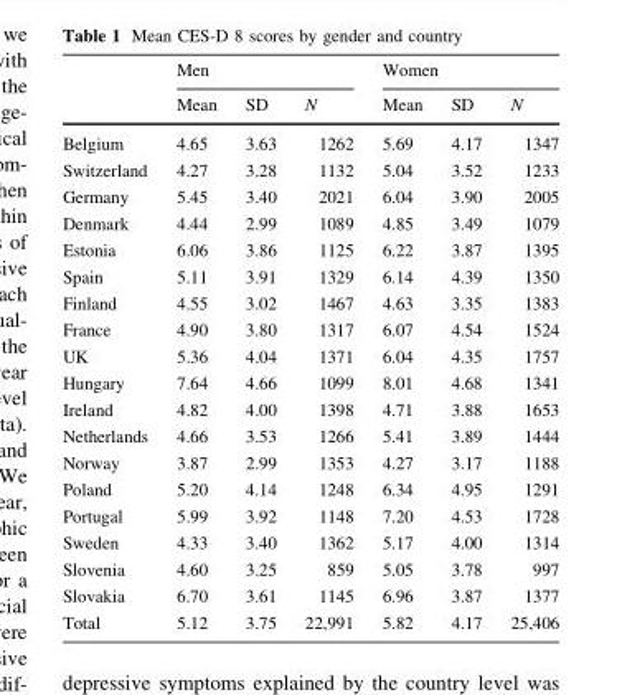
<table><thead><tr><td rowspan="2"></td><td colspan="3">Men</td><td colspan="3">Women</td></tr><tr><td>Mean</td><td>SD</td><td>N</td><td>Mean</td><td>SD</td><td>N</td></tr></thead><tbody><tr><td>Belgium</td><td>4.65</td><td>3.63</td><td>1262</td><td>5.69</td><td>4.17</td><td>1347</td></tr><tr><td>Switzerland</td><td>4.27</td><td>3.28</td><td>1132</td><td>5.04</td><td>3.52</td><td>1233</td></tr><tr><td>Germany</td><td>5.45</td><td>3.40</td><td>2021</td><td>6.04</td><td>3.90</td><td>2005</td></tr><tr><td>Denmark</td><td>4.44</td><td>2.99</td><td>1089</td><td>4.85</td><td>3.49</td><td>1079</td></tr><tr><td>Estonia</td><td>6.06</td><td>3.86</td><td>1125</td><td>6.22</td><td>3.87</td><td>1395</td></tr><tr><td>Spain</td><td>5.11</td><td>3.91</td><td>1329</td><td>6.14</td><td>4.39</td><td>1350</td></tr><tr><td>Finland</td><td>4.55</td><td>3.02</td><td>1467</td><td>4.63</td><td>3.35</td><td>1383</td></tr><tr><td>France</td><td>4.90</td><td>3.80</td><td>1317</td><td>6.07</td><td>4.54</td><td>1524</td></tr><tr><td>UK</td><td>5.36</td><td>4.04</td><td>1371</td><td>6.04</td><td>4.35</td><td>1757</td></tr><tr><td>Hungary</td><td>7.64</td><td>4.66</td><td>1099</td><td>8.01</td><td>4.68</td><td>1341</td></tr><tr><td>Ireland</td><td>4.82</td><td>4.00</td><td>1398</td><td>4.71</td><td>3.88</td><td>1653</td></tr><tr><td>Netherlands</td><td>4.66</td><td>3.53</td><td>1266</td><td>5.41</td><td>3.89</td><td>1444</td></tr><tr><td>Norway</td><td>3.87</td><td>2.99</td><td>1353</td><td>4.27</td><td>3.17</td><td>1188</td></tr><tr><td>Poland</td><td>5.20</td><td>4.14</td><td>1248</td><td>6.34</td><td>4.95</td><td>1291</td></tr><tr><td>Portugal</td><td>5.99</td><td>3.92</td><td>1148</td><td>7.20</td><td>4.53</td><td>1728</td></tr><tr><td>Sweden</td><td>4.33</td><td>3.40</td><td>1362</td><td>5.17</td><td>4.00</td><td>1314</td></tr><tr><td>Slovenia</td><td>4.60</td><td>3.25</td><td>859</td><td>5.05</td><td>3.78</td><td>997</td></tr><tr><td>Slovakia</td><td>6.70</td><td>3.61</td><td>1145</td><td>6.96</td><td>3.87</td><td>1377</td></tr><tr><td>Total</td><td>5.12</td><td>3.75</td><td>22,991</td><td>5.82</td><td>4.17</td><td>25,406</td></tr></tbody></table>